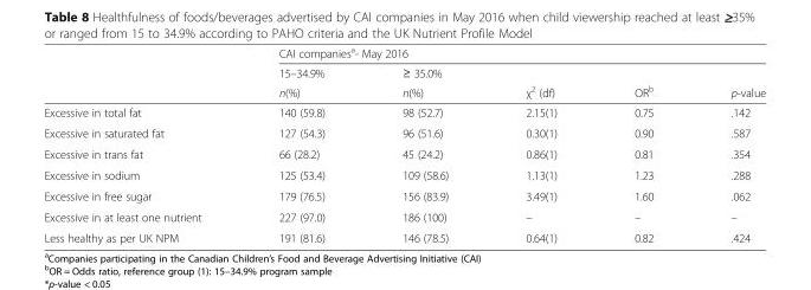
<table><thead><tr><td rowspan="3"></td><td colspan="5">CAI companies<sup>a</sup>- May 2016</td></tr><tr><td rowspan="2">15–34.9% n(%)</td><td rowspan="2">≥ 35.0% n(%)</td><td rowspan="2">χ<sup>2</sup> (df)</td><td rowspan="2">OR<sup>b</sup></td><td rowspan="2">p-value</td></tr><tr></tr></thead><tbody><tr><td>Excessive in total fat</td><td>140 (59.8)</td><td>98 (52.7)</td><td>2.15(1)</td><td>0.75</td><td>.142</td></tr><tr><td>Excessive in saturated fat</td><td>127 (54.3)</td><td>96 (51.6)</td><td>0.30(1)</td><td>0.90</td><td>.587</td></tr><tr><td>Excessive in trans fat</td><td>66 (28.2)</td><td>45 (24.2)</td><td>0.86(1)</td><td>0.81</td><td>.354</td></tr><tr><td>Excessive in sodium</td><td>125 (53.4)</td><td>109 (58.6)</td><td>1.13(1)</td><td>1.23</td><td>.288</td></tr><tr><td>Excessive in free sugar</td><td>179 (76.5)</td><td>156 (83.9)</td><td>3.49(1)</td><td>1.60</td><td>.062</td></tr><tr><td>Excessive in at least one nutrient</td><td>227 (97.0)</td><td>186 (100)</td><td>–</td><td>–</td><td>–</td></tr><tr><td>Less healthy as per UK NPM</td><td>191 (81.6)</td><td>146 (78.5)</td><td>0.64(1)</td><td>0.82</td><td>.424</td></tr></tbody></table>